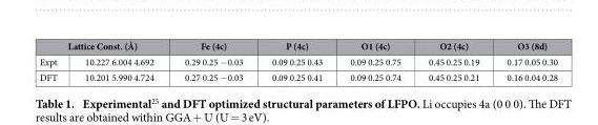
<table><thead><tr><td colspan="2">Lattice Const. (Å)</td><td rowspan="2">Fe (4c) 0.29 0.25 − 0.03</td><td rowspan="2">P (4c) 0.09 0.25 0.43</td><td rowspan="2">O1 (4c) 0.09 0.25 0.75</td><td rowspan="2">O2 (4c) 0.45 0.25 0.19</td><td rowspan="2">O3 (8d) 0.17 0.05 0.30</td></tr><tr><td>Expt</td><td>10.227 6.004 4.692</td></tr></thead><tbody><tr><td>DFT</td><td>10.201 5.990 4.724</td><td>0.27 0.25 − 0.03</td><td>0.09 0.25 0.41</td><td>0.09 0.25 0.74</td><td>0.45 0.25 0.21</td><td>0.16 0.04 0.28</td></tr></tbody></table>